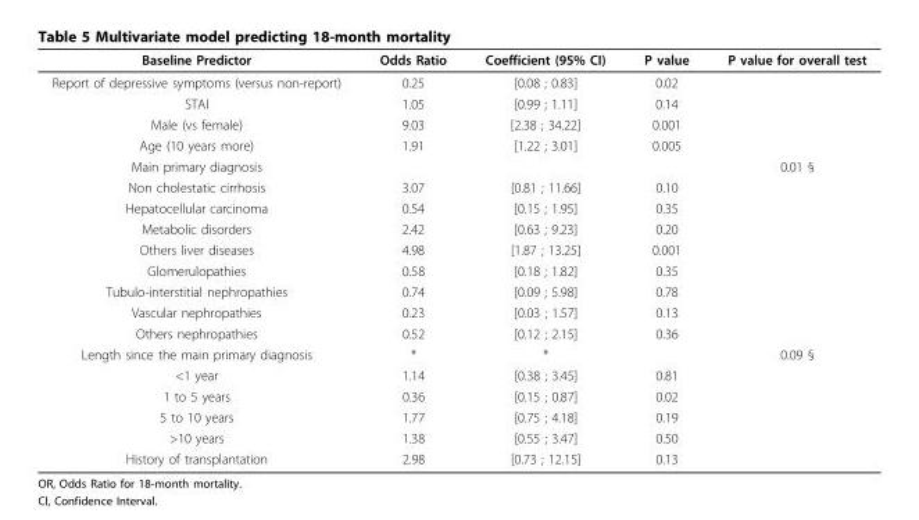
<table><thead><tr><td>Baseline Predictor</td><td>Odds Ratio</td><td>Coefficient (95% CI)</td><td>P value</td><td>P value for overall test</td></tr></thead><tbody><tr><td>Report of depressive symptoms (versus non-report)</td><td>0.25</td><td>[0.08 ; 0.83]</td><td>0.02</td><td></td></tr><tr><td>STAI</td><td>1.05</td><td>[0.99 ; 1.11]</td><td>0.14</td><td></td></tr><tr><td>Male (vs female)</td><td>9.03</td><td>[2.38 ; 34.22]</td><td>0.001</td><td></td></tr><tr><td>Age (10 years more)</td><td>1.91</td><td>[1.22 ; 3.01]</td><td>0.005</td><td></td></tr><tr><td>Main primary diagnosis</td><td></td><td></td><td></td><td>0.01 §</td></tr><tr><td>Non cholestatic cirrhosis</td><td>3.07</td><td>[0.81 ; 11.66]</td><td>0.10</td><td></td></tr><tr><td>Hepatocellular carcinoma</td><td>0.54</td><td>[0.15 ; 1.95]</td><td>0.35</td><td></td></tr><tr><td>Metabolic disorders</td><td>2.42</td><td>[0.63 ; 9.23]</td><td>0.20</td><td></td></tr><tr><td>Others liver diseases</td><td>4.98</td><td>[1.87 ; 13.25]</td><td>0.001</td><td></td></tr><tr><td>Glomerulopathies</td><td>0.58</td><td>[0.18 ; 1.82]</td><td>0.35</td><td></td></tr><tr><td>Tubulo-interstitial nephropathies</td><td>0.74</td><td>[0.09 ; 5.98]</td><td>0.78</td><td></td></tr><tr><td>Vascular nephropathies</td><td>0.23</td><td>[0.03 ; 1.57]</td><td>0.13</td><td></td></tr><tr><td>Others nephropathies</td><td>0.52</td><td>[0.12 ; 2.15]</td><td>0.36</td><td></td></tr><tr><td>Length since the main primary diagnosis</td><td>*</td><td>*</td><td></td><td>0.09 §</td></tr><tr><td>&lt;1 year</td><td>1.14</td><td>[0.38 ; 3.45]</td><td>0.81</td><td></td></tr><tr><td>1 to 5 years</td><td>0.36</td><td>[0.15 ; 0.87]</td><td>0.02</td><td></td></tr><tr><td>5 to 10 years</td><td>1.77</td><td>[0.75 ; 4.18]</td><td>0.19</td><td></td></tr><tr><td>&gt;10 years</td><td>1.38</td><td>[0.55 ; 3.47]</td><td>0.50</td><td></td></tr><tr><td>History of transplantation</td><td>2.98</td><td>[0.73 ; 12.15]</td><td>0.13</td><td></td></tr></tbody></table>